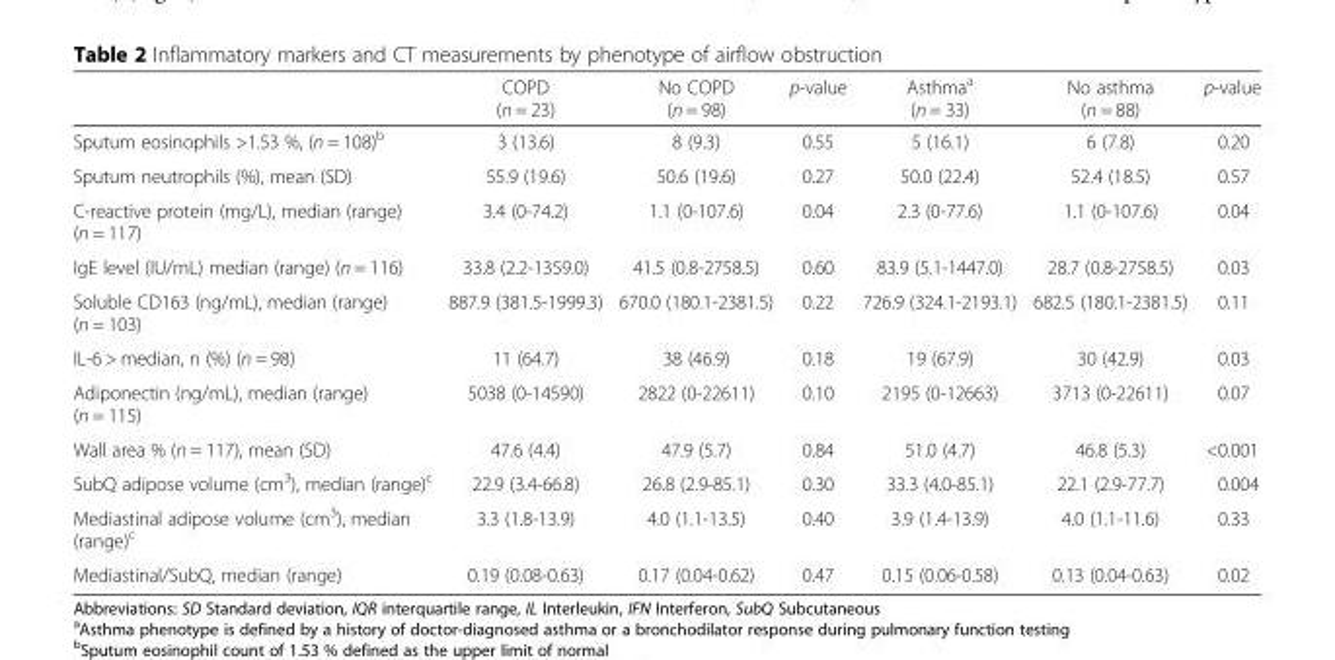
<table><thead><tr><td></td><td>COPD (n = 23)</td><td>No COPD (n = 98)</td><td>p-value</td><td>Asthma<sup>a</sup> (n = 33)</td><td>No asthma (n = 88)</td><td>p-value</td></tr></thead><tbody><tr><td>Sputum eosinophils &gt;1.53 %, (n = 108)<sup>b</sup></td><td>3 (13.6)</td><td>8 (9.3)</td><td>0.55</td><td>5 (16.1)</td><td>6 (7.8)</td><td>0.20</td></tr><tr><td>Sputum neutrophils (%), mean (SD)</td><td>55.9 (19.6)</td><td>50.6 (19.6)</td><td>0.27</td><td>50.0 (22.4)</td><td>52.4 (18.5)</td><td>0.57</td></tr><tr><td>C-reactive protein (mg/L), median (range) (n = 117)</td><td>3.4 (0-74.2)</td><td>1.1 (0-107.6)</td><td>0.04</td><td>2.3 (0-77.6)</td><td>1.1 (0-107.6)</td><td>0.04</td></tr><tr><td>IgE level (IU/mL) median (range) (n = 116)</td><td>33.8 (2.2-1359.0)</td><td>41.5 (0.8-2758.5)</td><td>0.60</td><td>83.9 (5.1-1447.0)</td><td>28.7 (0.8-2758.5)</td><td>0.03</td></tr><tr><td>Soluble CD163 (ng/mL), median (range) (n = 103)</td><td>887.9 (381.5-1999.3)</td><td>670.0 (180.1-2381.5)</td><td>0.22</td><td>726.9 (324.1-2193.1)</td><td>682.5 (180.1-2381.5)</td><td>0.11</td></tr><tr><td>IL-6 &gt; median, n (%) (n = 98)</td><td>11 (64.7)</td><td>38 (46.9)</td><td>0.18</td><td>19 (67.9)</td><td>30 (42.9)</td><td>0.03</td></tr><tr><td>Adiponectin (ng/mL), median (range) (n = 115)</td><td>5038 (0-14590)</td><td>2822 (0-22611)</td><td>0.10</td><td>2195 (0-12663)</td><td>3713 (0-22611)</td><td>0.07</td></tr><tr><td>Wall area % (n = 117), mean (SD)</td><td>47.6 (4.4)</td><td>47.9 (5.7)</td><td>0.84</td><td>51.0 (4.7)</td><td>46.8 (5.3)</td><td>&lt;0.001</td></tr><tr><td>SubQ adipose volume (cm<sup>3</sup>), median (range)<sup>c</sup></td><td>22.9 (3.4-66.8)</td><td>26.8 (2.9-85.1)</td><td>0.30</td><td>33.3 (4.0-85.1)</td><td>22.1 (2.9-77.7)</td><td>0.004</td></tr><tr><td>Mediastinal adipose volume (cm<sup>3</sup>), median (range)<sup>c</sup></td><td>3.3 (1.8-13.9)</td><td>4.0 (1.1-13.5)</td><td>0.40</td><td>3.9 (1.4-13.9)</td><td>4.0 (1.1-11.6)</td><td>0.33</td></tr><tr><td>Mediastinal/SubQ, median (range)</td><td>0.19 (0.08-0.63)</td><td>0.17 (0.04-0.62)</td><td>0.47</td><td>0.15 (0.06-0.58)</td><td>0.13 (0.04-0.63)</td><td>0.02</td></tr></tbody></table>